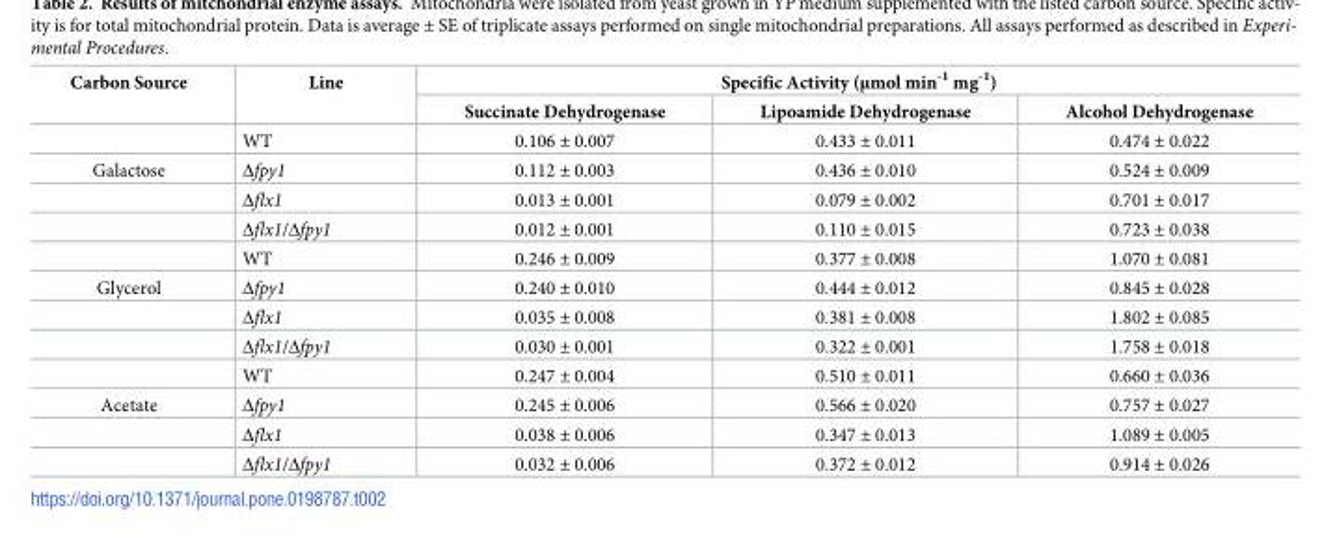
<table><thead><tr><td rowspan="2">Carbon Source</td><td rowspan="2">Line</td><td colspan="3">Specific Activity (μmol min<sup>-1</sup> mg<sup>-1</sup>)</td></tr><tr><td>Succinate Dehydrogenase</td><td>Lipoamide Dehydrogenase</td><td>Alcohol Dehydrogenase</td></tr></thead><tbody><tr><td></td><td>WT</td><td>0.106 ± 0.007</td><td>0.433 ± 0.011</td><td>0.474 ± 0.022</td></tr><tr><td rowspan="4">Galactose</td><td>Δfpy1</td><td>0.112 ± 0.003</td><td>0.436 ± 0.010</td><td>0.524 ± 0.009</td></tr><tr><td>Δflx1</td><td>0.013 ± 0.001</td><td>0.079 ± 0.002</td><td>0.701 ± 0.017</td></tr><tr><td>Δflx1/Δfpy1</td><td>0.012 ± 0.001</td><td>0.110 ± 0.015</td><td>0.723 ± 0.038</td></tr><tr><td>WT</td><td>0.246 ± 0.009</td><td>0.377 ± 0.008</td><td>1.070 ± 0.081</td></tr><tr><td rowspan="4">Glycerol</td><td>Δfpy1</td><td>0.240 ± 0.010</td><td>0.444 ± 0.012</td><td>0.845 ± 0.028</td></tr><tr><td>Δflx1</td><td>0.035 ± 0.008</td><td>0.381 ± 0.008</td><td>1.802 ± 0.085</td></tr><tr><td>Δflx1/Δfpy1</td><td>0.030 ± 0.001</td><td>0.322 ± 0.001</td><td>1.758 ± 0.018</td></tr><tr><td>WT</td><td>0.247 ± 0.004</td><td>0.510 ± 0.011</td><td>0.660 ± 0.036</td></tr><tr><td rowspan="3">Acetate</td><td>Δfpy1</td><td>0.245 ± 0.006</td><td>0.566 ± 0.020</td><td>0.757 ± 0.027</td></tr><tr><td>Δflx1</td><td>0.038 ± 0.006</td><td>0.347 ± 0.013</td><td>1.089 ± 0.005</td></tr><tr><td>Δflx1/Δfpy1</td><td>0.032 ± 0.006</td><td>0.372 ± 0.012</td><td>0.914 ± 0.026</td></tr></tbody></table>